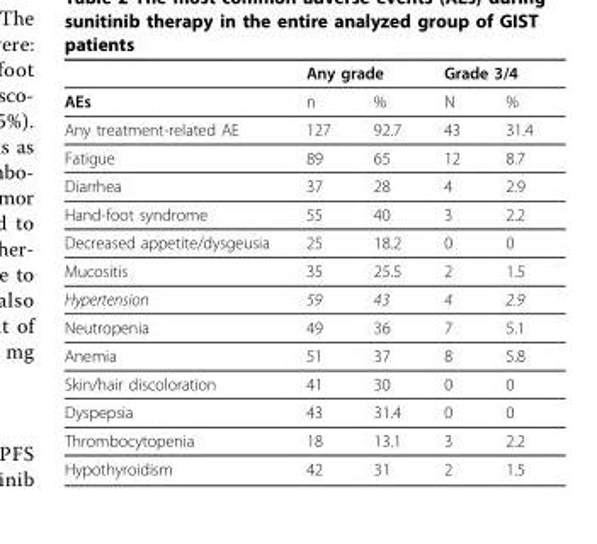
<table><thead><tr><td rowspan="2">AEs</td><td colspan="2">Any grade</td><td colspan="2">Grade 3/4</td></tr><tr><td>n</td><td>%</td><td>N</td><td>%</td></tr></thead><tbody><tr><td>Any treatment-related AE</td><td>127</td><td>92.7</td><td>43</td><td>31.4</td></tr><tr><td>Fatigue</td><td>89</td><td>65</td><td>12</td><td>8.7</td></tr><tr><td>Diarrhea</td><td>37</td><td>28</td><td>4</td><td>2.9</td></tr><tr><td>Hand-foot syndrome</td><td>55</td><td>40</td><td>3</td><td>2.2</td></tr><tr><td>Decreased appetite/dysgeusia</td><td>25</td><td>18.2</td><td>0</td><td>0</td></tr><tr><td>Mucositis</td><td>35</td><td>25.5</td><td>2</td><td>1.5</td></tr><tr><td>Hypertension</td><td>59</td><td>43</td><td>4</td><td>2.9</td></tr><tr><td>Neutropenia</td><td>49</td><td>36</td><td>7</td><td>5.1</td></tr><tr><td>Anemia</td><td>51</td><td>37</td><td>8</td><td>5.8</td></tr><tr><td>Skin/hair discoloration</td><td>41</td><td>30</td><td>0</td><td>0</td></tr><tr><td>Dyspepsia</td><td>43</td><td>31.4</td><td>0</td><td>0</td></tr><tr><td>Thrombocytopenia</td><td>18</td><td>13.1</td><td>3</td><td>2.2</td></tr><tr><td>Hypothyroidism</td><td>42</td><td>31</td><td>2</td><td>1.5</td></tr></tbody></table>